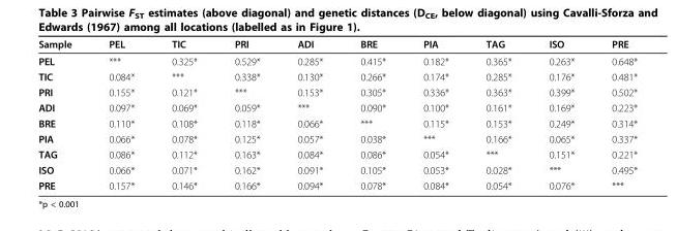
<table><thead><tr><td>Sample</td><td>PEL</td><td>TIC</td><td>PRI</td><td>ADI</td><td>BRE</td><td>PIA</td><td>TAG</td><td>ISO</td><td>PRE</td></tr></thead><tbody><tr><td>PEL</td><td>***</td><td>0.325*</td><td>0.529*</td><td>0.285*</td><td>0.415*</td><td>0.182*</td><td>0.365*</td><td>0.263*</td><td>0.648*</td></tr><tr><td>TIC</td><td>0.084*</td><td>***</td><td>0.338*</td><td>0.130*</td><td>0.266*</td><td>0.174*</td><td>0.285*</td><td>0.176*</td><td>0.481*</td></tr><tr><td>PRI</td><td>0.155*</td><td>0.121*</td><td>***</td><td>0.153*</td><td>0.305*</td><td>0.336*</td><td>0.363*</td><td>0.399*</td><td>0.502*</td></tr><tr><td>ADI</td><td>0.097*</td><td>0.069*</td><td>0.059*</td><td>***</td><td>0.090*</td><td>0.100*</td><td>0.161*</td><td>0.169*</td><td>0.223*</td></tr><tr><td>BRE</td><td>0.110*</td><td>0.108*</td><td>0.118*</td><td>0.066*</td><td>***</td><td>0.115*</td><td>0.153*</td><td>0.249*</td><td>0.314*</td></tr><tr><td>PIA</td><td>0.066*</td><td>0.078*</td><td>0.125*</td><td>0.057*</td><td>0.038*</td><td>***</td><td>0.166*</td><td>0.065*</td><td>0.337*</td></tr><tr><td>TAG</td><td>0.086*</td><td>0.112*</td><td>0.163*</td><td>0.084*</td><td>0.086*</td><td>0.054*</td><td>***</td><td>0.151*</td><td>0.221*</td></tr><tr><td>ISO</td><td>0.066*</td><td>0.071*</td><td>0.162*</td><td>0.091*</td><td>0.105*</td><td>0.053*</td><td>0.028*</td><td>***</td><td>0.495*</td></tr><tr><td>PRE</td><td>0.157*</td><td>0.146*</td><td>0.166*</td><td>0.094*</td><td>0.078*</td><td>0.084*</td><td>0.054*</td><td>0.076*</td><td>***</td></tr></tbody></table>